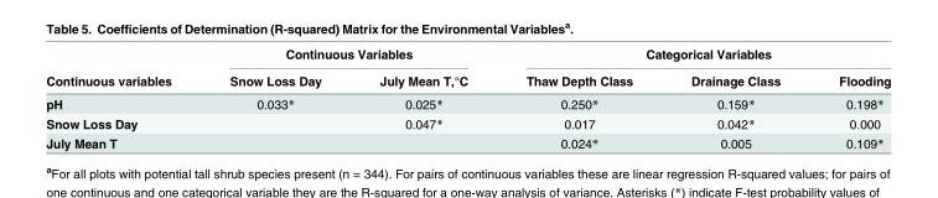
<table><thead><tr><td rowspan="2">Continuous variables</td><td colspan="2">Continuous Variables</td><td colspan="3">Categorical Variables</td></tr><tr><td>Snow Loss Day</td><td>July Mean T,°C</td><td>Thaw Depth Class</td><td>Drainage Class</td><td>Flooding</td></tr></thead><tbody><tr><td>pH</td><td>0.033*</td><td>0.025*</td><td>0.250*</td><td>0.159*</td><td>0.198*</td></tr><tr><td>Snow Loss Day</td><td></td><td>0.047*</td><td>0.017</td><td>0.042*</td><td>0.000</td></tr><tr><td>July Mean T</td><td></td><td></td><td>0.024*</td><td>0.005</td><td>0.109*</td></tr></tbody></table>